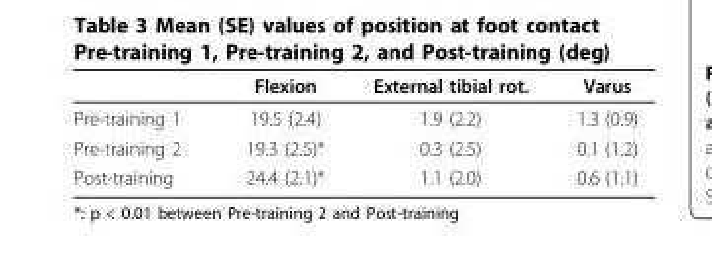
<table><thead><tr><td></td><td>Flexion</td><td>External tibial rot.</td><td>Varus</td></tr></thead><tbody><tr><td>Pre-training 1</td><td>19.5 (2.4)</td><td>1.9 (2.2)</td><td>1.3 (0.9)</td></tr><tr><td>Pre-training 2</td><td>19.3 (2.5)*</td><td>0.3 (2.5)</td><td>0.1 (1.2)</td></tr><tr><td>Post-training</td><td>24.4 (2.1)*</td><td>1.1 (2.0)</td><td>0.6 (1.1)</td></tr></tbody></table>